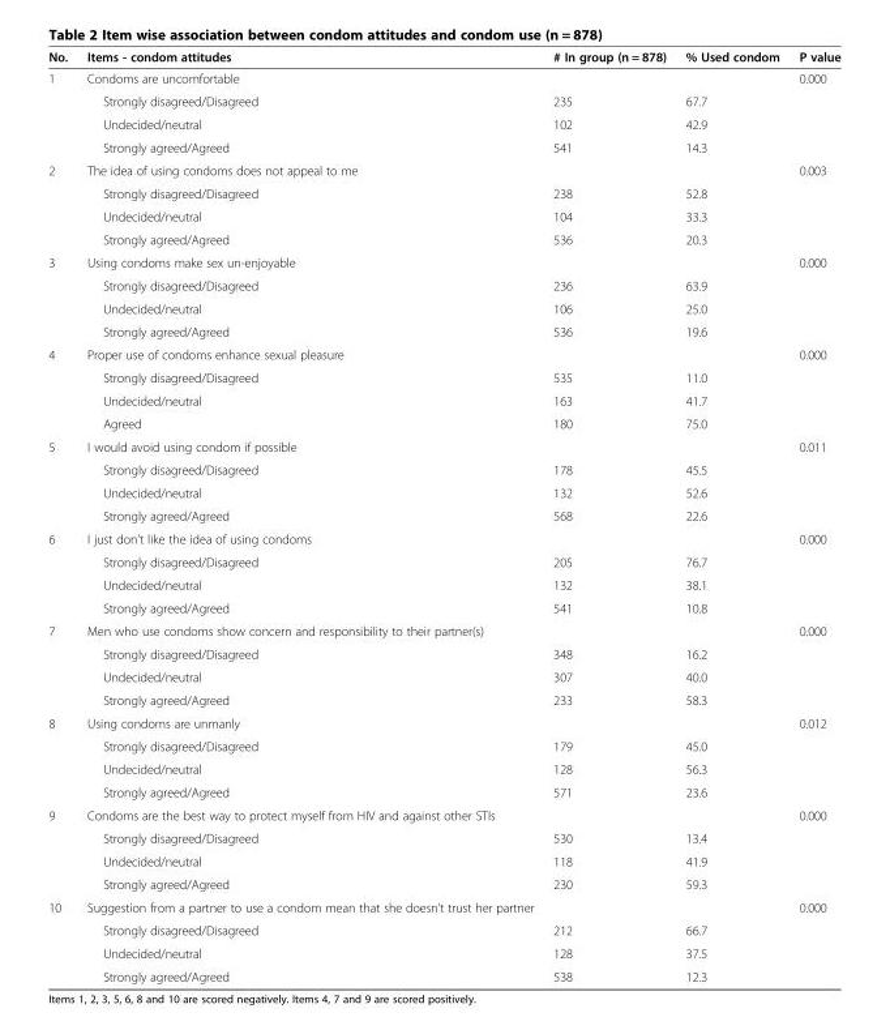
<table><thead><tr><td>No.</td><td>Items - condom attitudes</td><td># In group (n = 878)</td><td>% Used condom</td><td>P value</td></tr></thead><tbody><tr><td rowspan="4">1</td><td>Condoms are uncomfortable</td><td></td><td></td><td>0.000</td></tr><tr><td>Strongly disagreed/Disagreed</td><td>235</td><td>67.7</td><td></td></tr><tr><td>Undecided/neutral</td><td>102</td><td>42.9</td><td></td></tr><tr><td>Strongly agreed/Agreed</td><td>541</td><td>14.3</td><td></td></tr><tr><td rowspan="4">2</td><td>The idea of using condoms does not appeal to me</td><td></td><td></td><td>0.003</td></tr><tr><td>Strongly disagreed/Disagreed</td><td>238</td><td>52.8</td><td></td></tr><tr><td>Undecided/neutral</td><td>104</td><td>33.3</td><td></td></tr><tr><td>Strongly agreed/Agreed</td><td>536</td><td>20.3</td><td></td></tr><tr><td rowspan="4">3</td><td>Using condoms make sex un-enjoyable</td><td></td><td></td><td>0.000</td></tr><tr><td>Strongly disagreed/Disagreed</td><td>236</td><td>63.9</td><td></td></tr><tr><td>Undecided/neutral</td><td>106</td><td>25.0</td><td></td></tr><tr><td>Strongly agreed/Agreed</td><td>536</td><td>19.6</td><td></td></tr><tr><td rowspan="4">4</td><td>Proper use of condoms enhance sexual pleasure</td><td></td><td></td><td>0.000</td></tr><tr><td>Strongly disagreed/Disagreed</td><td>535</td><td>11.0</td><td></td></tr><tr><td>Undecided/neutral</td><td>163</td><td>41.7</td><td></td></tr><tr><td>Agreed</td><td>180</td><td>75.0</td><td></td></tr><tr><td rowspan="4">5</td><td>I would avoid using condom if possible</td><td></td><td></td><td>0.011</td></tr><tr><td>Strongly disagreed/Disagreed</td><td>178</td><td>45.5</td><td></td></tr><tr><td>Undecided/neutral</td><td>132</td><td>52.6</td><td></td></tr><tr><td>Strongly agreed/Agreed</td><td>568</td><td>22.6</td><td></td></tr><tr><td rowspan="4">6</td><td>I just don’t like the idea of using condoms</td><td></td><td></td><td>0.000</td></tr><tr><td>Strongly disagreed/Disagreed</td><td>205</td><td>76.7</td><td></td></tr><tr><td>Undecided/neutral</td><td>132</td><td>38.1</td><td></td></tr><tr><td>Strongly agreed/Agreed</td><td>541</td><td>10.8</td><td></td></tr><tr><td rowspan="4">7</td><td>Men who use condoms show concern and responsibility to their partner(s)</td><td></td><td></td><td>0.000</td></tr><tr><td>Strongly disagreed/Disagreed</td><td>348</td><td>16.2</td><td></td></tr><tr><td>Undecided/neutral</td><td>307</td><td>40.0</td><td></td></tr><tr><td>Strongly agreed/Agreed</td><td>233</td><td>58.3</td><td></td></tr><tr><td rowspan="4">8</td><td>Using condoms are unmanly</td><td></td><td></td><td>0.012</td></tr><tr><td>Strongly disagreed/Disagreed</td><td>179</td><td>45.0</td><td></td></tr><tr><td>Undecided/neutral</td><td>128</td><td>56.3</td><td></td></tr><tr><td>Strongly agreed/Agreed</td><td>571</td><td>23.6</td><td></td></tr><tr><td rowspan="4">9</td><td>Condoms are the best way to protect myself from HIV and against other STIs</td><td></td><td></td><td>0.000</td></tr><tr><td>Strongly disagreed/Disagreed</td><td>530</td><td>13.4</td><td></td></tr><tr><td>Undecided/neutral</td><td>118</td><td>41.9</td><td></td></tr><tr><td>Strongly agreed/Agreed</td><td>230</td><td>59.3</td><td></td></tr><tr><td rowspan="4">10</td><td>Suggestion from a partner to use a condom mean that she doesn’t trust her partner</td><td></td><td></td><td>0.000</td></tr><tr><td>Strongly disagreed/Disagreed</td><td>212</td><td>66.7</td><td></td></tr><tr><td>Undecided/neutral</td><td>128</td><td>37.5</td><td></td></tr><tr><td>Strongly agreed/Agreed</td><td>538</td><td>12.3</td><td></td></tr></tbody></table>